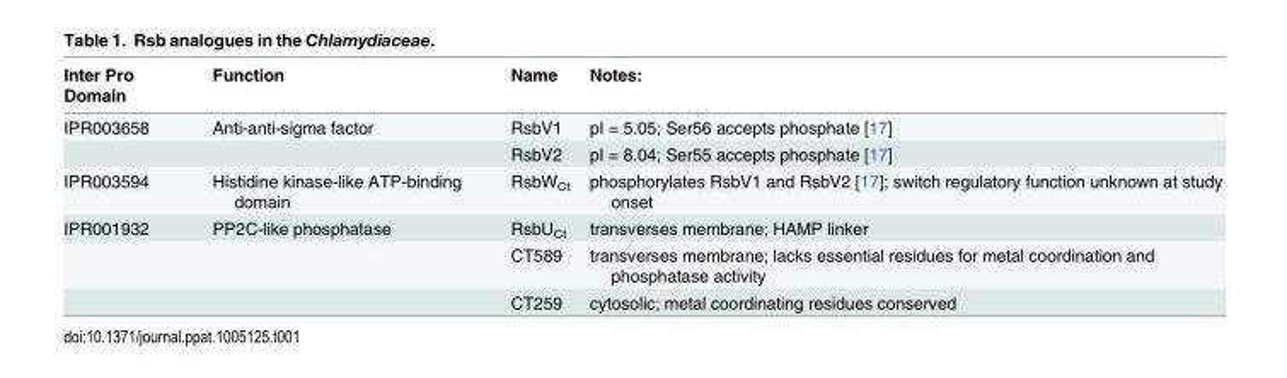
<table><thead><tr><td>Inter Pro Domain</td><td>Function</td><td>Name</td><td>Notes:</td></tr></thead><tbody><tr><td rowspan="2">IPR003658</td><td>Anti-anti-sigma factor</td><td>RsbV1</td><td>pI = 5.05; Ser56 accepts phosphate [17]</td></tr><tr><td></td><td>RsbV2</td><td>pI = 8.04; Ser55 accepts phosphate [17]</td></tr><tr><td>IPR003594</td><td>Histidine kinase-like ATP-binding domain</td><td>RsbW<sub>Ct</sub></td><td>phosphorylates RsbV1 and RsbV2 [17]; switch regulatory function unknown at study onset</td></tr><tr><td rowspan="3">IPR001932</td><td>PP2C-like phosphatase</td><td>RsbU<sub>Ct</sub></td><td>transverses membrane; HAMP linker</td></tr><tr><td></td><td>CT589</td><td>transverses membrane; lacks essential residues for metal coordination and phosphatase activity</td></tr><tr><td></td><td>CT259</td><td>cytosolic; metal coordinating residues conserved</td></tr></tbody></table>